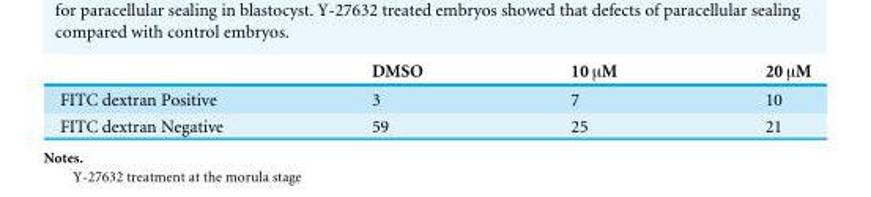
<table><thead><tr><td></td><td>DMSO</td><td>10 µM</td><td>20 µM</td></tr></thead><tbody><tr><td>FITC dextran Positive</td><td>3</td><td>7</td><td>10</td></tr><tr><td>FITC dextran Negative</td><td>59</td><td>25</td><td>21</td></tr></tbody></table>